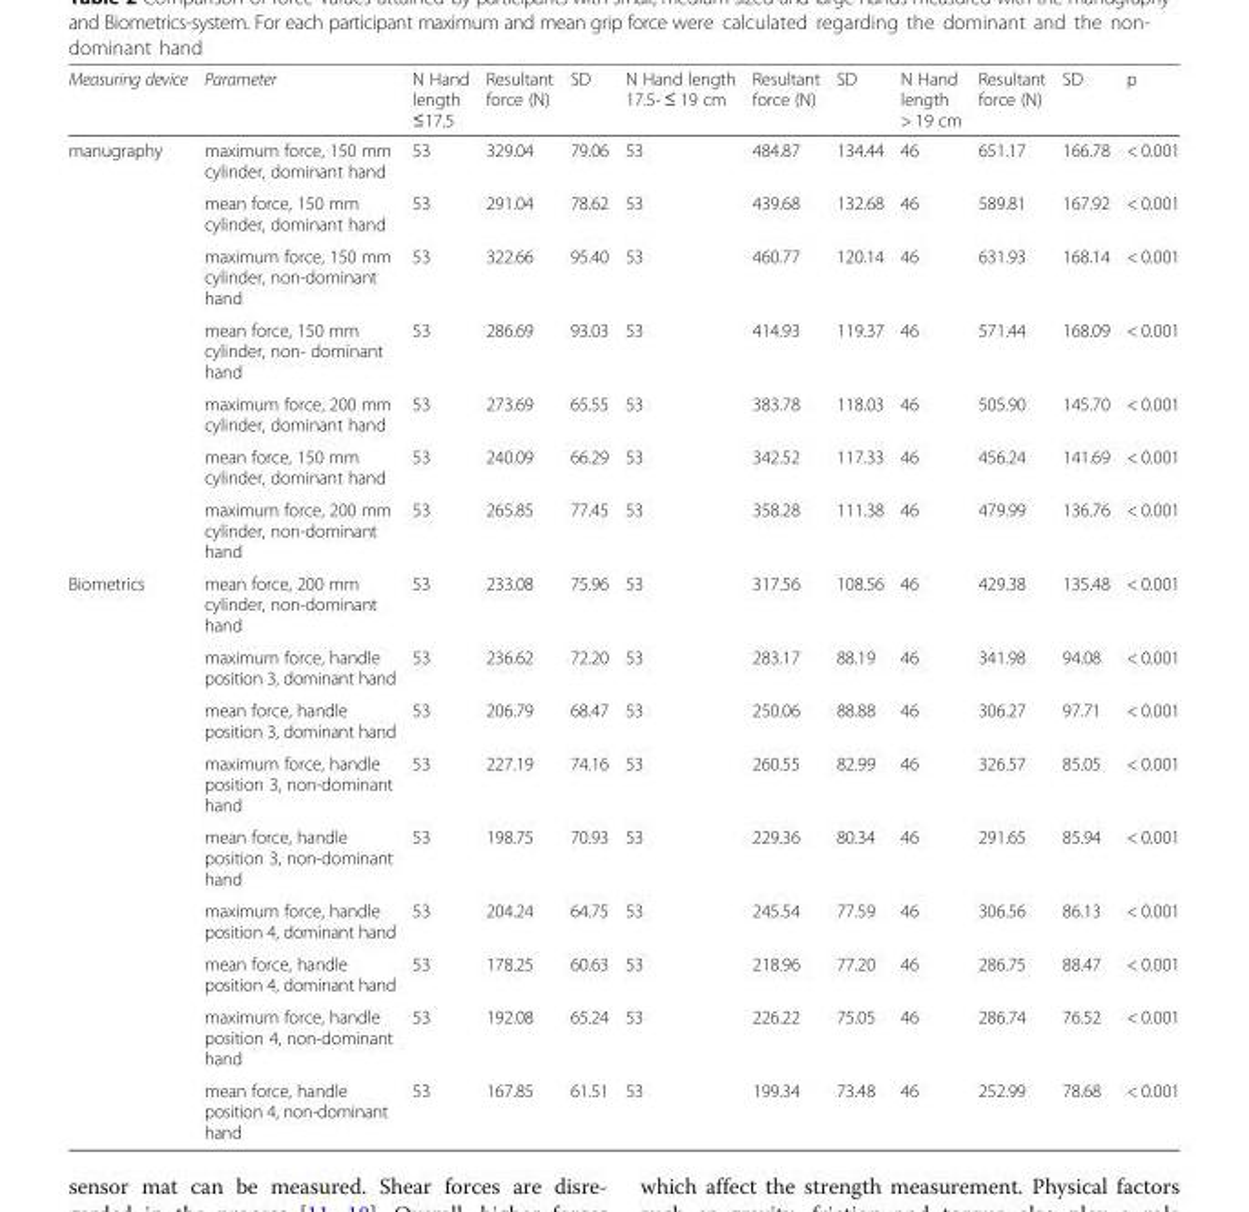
<table><thead><tr><td>Measuring device</td><td>Parameter</td><td>N Hand length ≤17.5</td><td>Resultant force (N)</td><td>SD</td><td>N Hand length 17.5- ≤ 19 cm</td><td>Resultant force (N)</td><td>SD</td><td>N Hand length &gt; 19 cm</td><td>Resultant force (N)</td><td>SD</td><td>p</td></tr></thead><tbody><tr><td rowspan="7">manugraphy</td><td>maximum force, 150 mm cylinder, dominant hand</td><td>53</td><td>329.04</td><td>79.06</td><td>53</td><td>484.87</td><td>134.44</td><td>46</td><td>651.17</td><td>166.78</td><td>&lt; 0.001</td></tr><tr><td>mean force, 150 mm cylinder, dominant hand</td><td>53</td><td>291.04</td><td>78.62</td><td>53</td><td>439.68</td><td>132.68</td><td>46</td><td>589.81</td><td>167.92</td><td>&lt; 0.001</td></tr><tr><td>maximum force, 150 mm cylinder, non-dominant hand</td><td>53</td><td>322.66</td><td>95.40</td><td>53</td><td>460.77</td><td>120.14</td><td>46</td><td>631.93</td><td>168.14</td><td>&lt; 0.001</td></tr><tr><td>mean force, 150 mm cylinder, non- dominant hand</td><td>53</td><td>286.69</td><td>93.03</td><td>53</td><td>414.93</td><td>119.37</td><td>46</td><td>571.44</td><td>168.09</td><td>&lt; 0.001</td></tr><tr><td>maximum force, 200 mm cylinder, dominant hand</td><td>53</td><td>273.69</td><td>65.55</td><td>53</td><td>383.78</td><td>118.03</td><td>46</td><td>505.90</td><td>145.70</td><td>&lt; 0.001</td></tr><tr><td>mean force, 150 mm cylinder, dominant hand</td><td>53</td><td>240.09</td><td>66.29</td><td>53</td><td>342.52</td><td>117.33</td><td>46</td><td>456.24</td><td>141.69</td><td>&lt; 0.001</td></tr><tr><td>maximum force, 200 mm cylinder, non-dominant hand</td><td>53</td><td>265.85</td><td>77.45</td><td>53</td><td>358.28</td><td>111.38</td><td>46</td><td>479.99</td><td>136.76</td><td>&lt; 0.001</td></tr><tr><td rowspan="9">Biometrics</td><td>mean force, 200 mm cylinder, non-dominant hand</td><td>53</td><td>233.08</td><td>75.96</td><td>53</td><td>317.56</td><td>108.56</td><td>46</td><td>429.38</td><td>135.48</td><td>&lt; 0.001</td></tr><tr><td>maximum force, handle position 3, dominant hand</td><td>53</td><td>236.62</td><td>72.20</td><td>53</td><td>283.17</td><td>88.19</td><td>46</td><td>341.98</td><td>94.08</td><td>&lt; 0.001</td></tr><tr><td>mean force, handle position 3, dominant hand</td><td>53</td><td>206.79</td><td>68.47</td><td>53</td><td>250.06</td><td>88.88</td><td>46</td><td>306.27</td><td>97.71</td><td>&lt; 0.001</td></tr><tr><td>maximum force, handle position 3, non-dominant hand</td><td>53</td><td>227.19</td><td>74.16</td><td>53</td><td>260.55</td><td>82.99</td><td>46</td><td>326.57</td><td>85.05</td><td>&lt; 0.001</td></tr><tr><td>mean force, handle position 3, non-dominant hand</td><td>53</td><td>198.75</td><td>70.93</td><td>53</td><td>229.36</td><td>80.34</td><td>46</td><td>291.65</td><td>85.94</td><td>&lt; 0.001</td></tr><tr><td>maximum force, handle position 4, dominant hand</td><td>53</td><td>204.24</td><td>64.75</td><td>53</td><td>245.54</td><td>77.59</td><td>46</td><td>306.56</td><td>86.13</td><td>&lt; 0.001</td></tr><tr><td>mean force, handle position 4, dominant hand</td><td>53</td><td>178.25</td><td>60.63</td><td>53</td><td>218.96</td><td>77.20</td><td>46</td><td>286.75</td><td>88.47</td><td>&lt; 0.001</td></tr><tr><td>maximum force, handle position 4, non-dominant hand</td><td>53</td><td>192.08</td><td>65.24</td><td>53</td><td>226.22</td><td>75.05</td><td>46</td><td>286.74</td><td>76.52</td><td>&lt; 0.001</td></tr><tr><td>mean force, handle position 4, non-dominant hand</td><td>53</td><td>167.85</td><td>61.51</td><td>53</td><td>199.34</td><td>73.48</td><td>46</td><td>252.99</td><td>78.68</td><td>&lt; 0.001</td></tr></tbody></table>